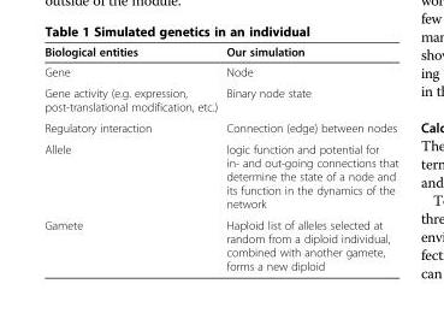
<table><thead><tr><td>Biological entities</td><td>Our simulation</td></tr></thead><tbody><tr><td>Gene</td><td>Node</td></tr><tr><td>Gene activity (e.g. expression, post-translational modification, etc.)</td><td>Binary node state</td></tr><tr><td>Regulatory interaction</td><td>Connection (edge) between nodes</td></tr><tr><td>Allele</td><td>logic function and potential for in- and out-going connections that determine the state of a node and its function in the dynamics of the network</td></tr><tr><td>Gamete</td><td>Haploid list of alleles selected at random from a diploid individual, combined with another gamete, forms a new diploid</td></tr></tbody></table>